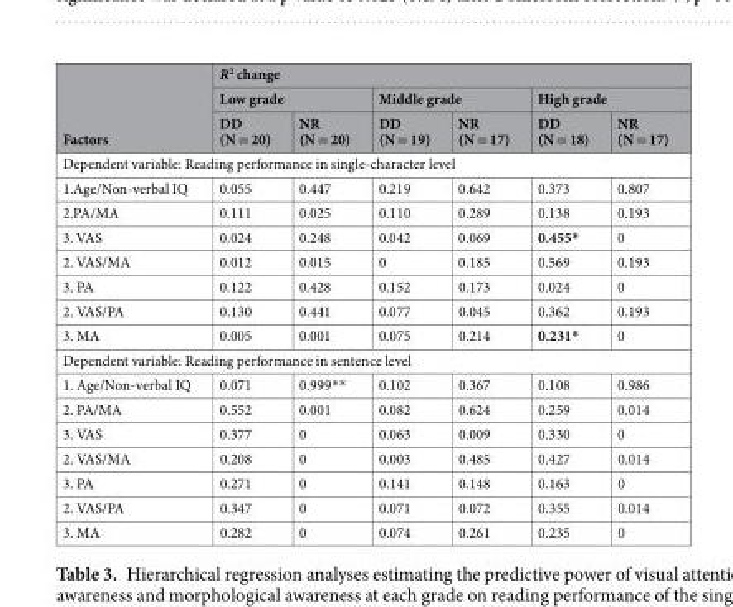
<table><thead><tr><td rowspan="3">Factors</td><td colspan="6">R<sup>2</sup> change</td></tr><tr><td colspan="2">Low grade</td><td colspan="2">Middle grade</td><td colspan="2">High grade</td></tr><tr><td>DD (N = 20)</td><td>NR (N = 20)</td><td>DD (N = 19)</td><td>NR (N = 17)</td><td>DD (N = 18)</td><td>NR (N = 17)</td></tr></thead><tbody><tr><td colspan="7">Dependent variable: Reading performance in single-character level</td></tr><tr><td>1.Age/Non-verbal IQ</td><td>0.055</td><td>0.447</td><td>0.219</td><td>0.642</td><td>0.373</td><td>0.807</td></tr><tr><td>2.PA/MA</td><td>0.111</td><td>0.025</td><td>0.110</td><td>0.289</td><td>0.138</td><td>0.193</td></tr><tr><td>3. VAS</td><td>0.024</td><td>0.248</td><td>0.042</td><td>0.069</td><td>0.455*</td><td>0</td></tr><tr><td>2. VAS/MA</td><td>0.012</td><td>0.015</td><td>0</td><td>0.185</td><td>0.569</td><td>0.193</td></tr><tr><td>3. PA</td><td>0.122</td><td>0.428</td><td>0.152</td><td>0.173</td><td>0.024</td><td>0</td></tr><tr><td>2. VAS/PA</td><td>0.130</td><td>0.441</td><td>0.077</td><td>0.045</td><td>0.362</td><td>0.193</td></tr><tr><td>3. MA</td><td>0.005</td><td>0.001</td><td>0.075</td><td>0.214</td><td>0.231*</td><td>0</td></tr><tr><td colspan="7">Dependent variable: Reading performance in sentence level</td></tr><tr><td>1. Age/Non-verbal IQ</td><td>0.071</td><td>0.999**</td><td>0.102</td><td>0.367</td><td>0.108</td><td>0.986</td></tr><tr><td>2. PA/MA</td><td>0.552</td><td>0.001</td><td>0.082</td><td>0.624</td><td>0.259</td><td>0.014</td></tr><tr><td>3. VAS</td><td>0.377</td><td>0</td><td>0.063</td><td>0.009</td><td>0.330</td><td>0</td></tr><tr><td>2. VAS/MA</td><td>0.208</td><td>0</td><td>0.003</td><td>0.485</td><td>0.427</td><td>0.014</td></tr><tr><td>3. PA</td><td>0.271</td><td>0</td><td>0.141</td><td>0.148</td><td>0.163</td><td>0</td></tr><tr><td>2. VAS/PA</td><td>0.347</td><td>0</td><td>0.071</td><td>0.072</td><td>0.355</td><td>0.014</td></tr><tr><td>3. MA</td><td>0.282</td><td>0</td><td>0.074</td><td>0.261</td><td>0.235</td><td>0</td></tr></tbody></table>